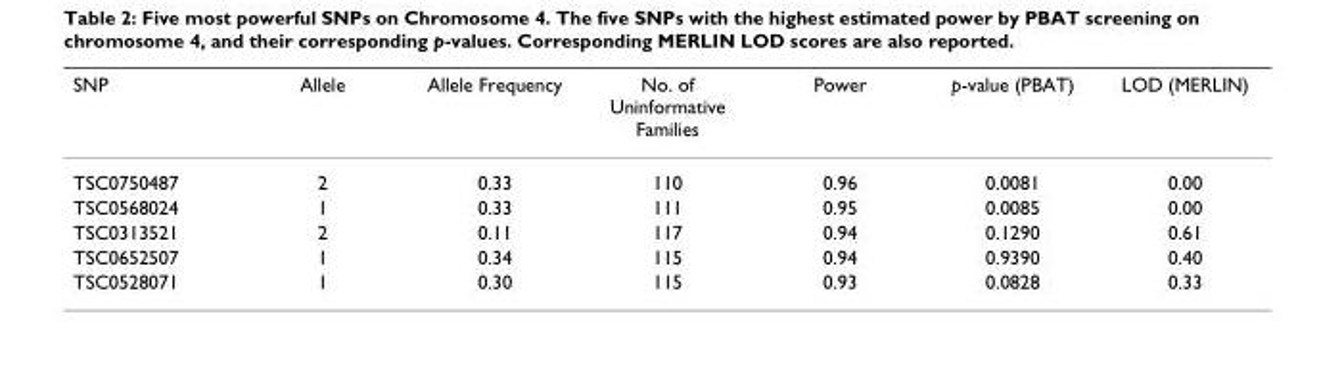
<table><thead><tr><td>SNP</td><td>Allele</td><td>Allele Frequency</td><td>No. of Uninformative Families</td><td>Power</td><td>p-value (PBAT)</td><td>LOD (MERLIN)</td></tr></thead><tbody><tr><td>TSC0750487</td><td>2</td><td>0.33</td><td>110</td><td>0.96</td><td>0.0081</td><td>0.00</td></tr><tr><td>TSC0568024</td><td>1</td><td>0.33</td><td>111</td><td>0.95</td><td>0.0085</td><td>0.00</td></tr><tr><td>TSC0313521</td><td>2</td><td>0.11</td><td>117</td><td>0.94</td><td>0.1290</td><td>0.61</td></tr><tr><td>TSC0652507</td><td>1</td><td>0.34</td><td>115</td><td>0.94</td><td>0.9390</td><td>0.40</td></tr><tr><td>TSC0528071</td><td>1</td><td>0.30</td><td>115</td><td>0.93</td><td>0.0828</td><td>0.33</td></tr></tbody></table>